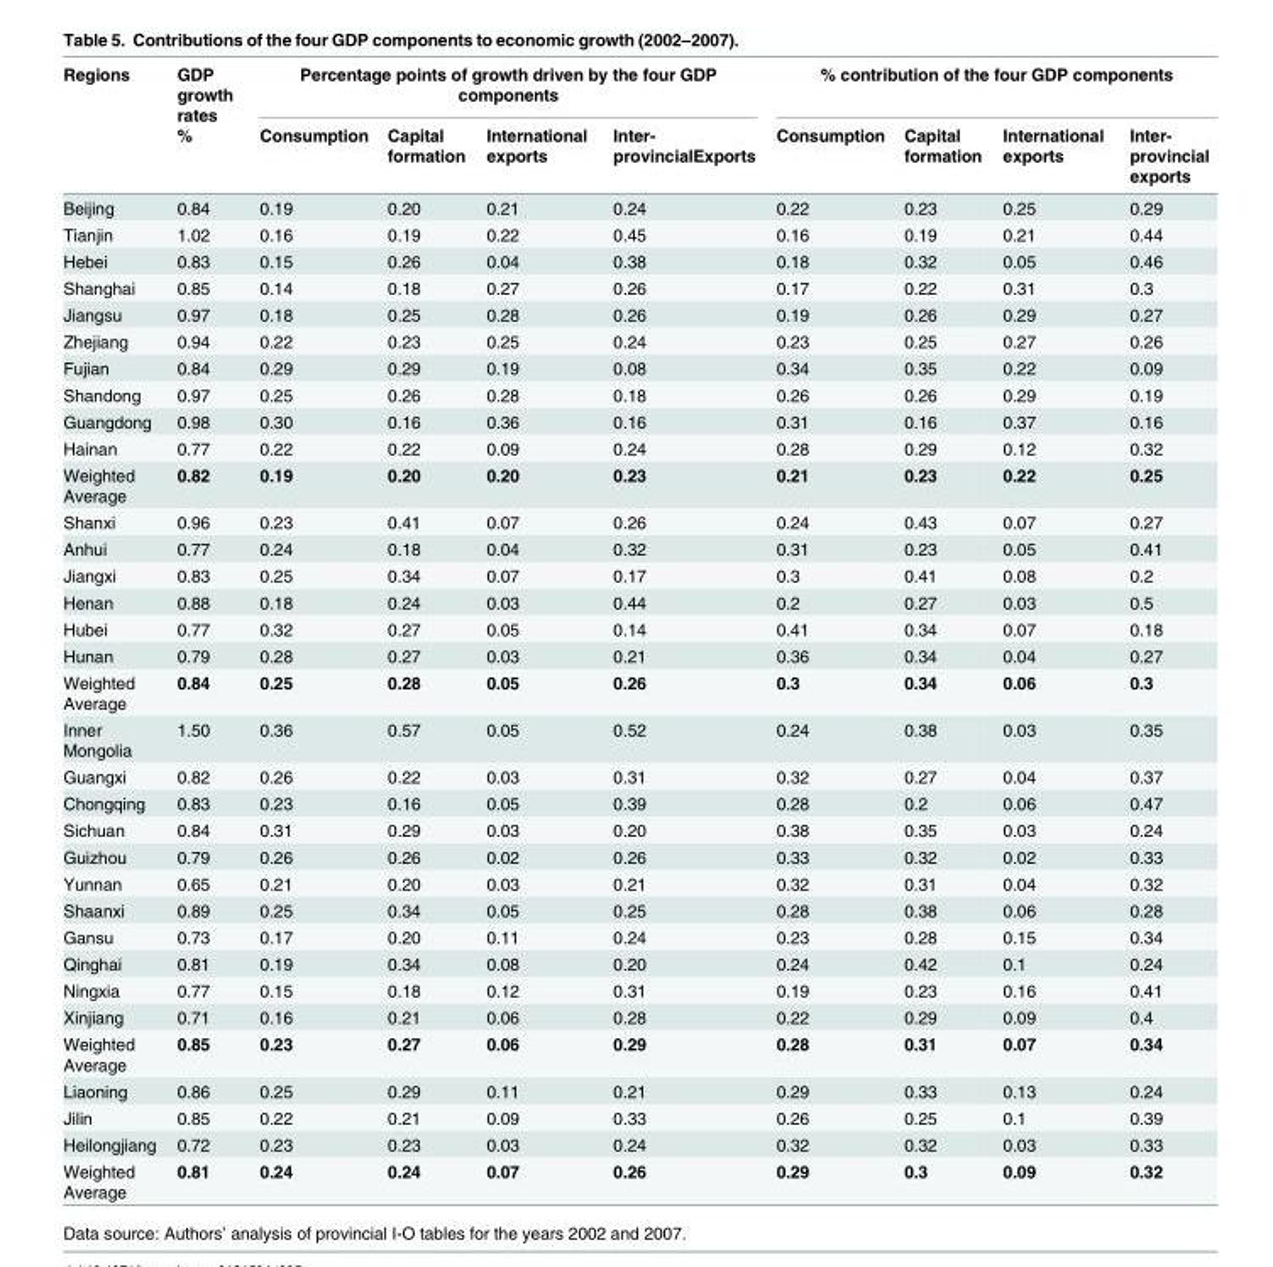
<table><thead><tr><td rowspan="2">Regions</td><td rowspan="2">GDP growth rates %</td><td colspan="4">Percentage points of growth driven by the four GDP components</td><td colspan="4">% contribution of the four GDP components</td></tr><tr><td>Consumption</td><td>Capital formation</td><td>International exports</td><td>Inter- provincialExports</td><td>Consumption</td><td>Capital formation</td><td>International exports</td><td>Inter- provincial exports</td></tr></thead><tbody><tr><td>Beijing</td><td>0.84</td><td>0.19</td><td>0.20</td><td>0.21</td><td>0.24</td><td>0.22</td><td>0.23</td><td>0.25</td><td>0.29</td></tr><tr><td>Tianjin</td><td>1.02</td><td>0.16</td><td>0.19</td><td>0.22</td><td>0.45</td><td>0.16</td><td>0.19</td><td>0.21</td><td>0.44</td></tr><tr><td>Hebei</td><td>0.83</td><td>0.15</td><td>0.26</td><td>0.04</td><td>0.38</td><td>0.18</td><td>0.32</td><td>0.05</td><td>0.46</td></tr><tr><td>Shanghai</td><td>0.85</td><td>0.14</td><td>0.18</td><td>0.27</td><td>0.26</td><td>0.17</td><td>0.22</td><td>0.31</td><td>0.3</td></tr><tr><td>Jiangsu</td><td>0.97</td><td>0.18</td><td>0.25</td><td>0.28</td><td>0.26</td><td>0.19</td><td>0.26</td><td>0.29</td><td>0.27</td></tr><tr><td>Zhejiang</td><td>0.94</td><td>0.22</td><td>0.23</td><td>0.25</td><td>0.24</td><td>0.23</td><td>0.25</td><td>0.27</td><td>0.26</td></tr><tr><td>Fujian</td><td>0.84</td><td>0.29</td><td>0.29</td><td>0.19</td><td>0.08</td><td>0.34</td><td>0.35</td><td>0.22</td><td>0.09</td></tr><tr><td>Shandong</td><td>0.97</td><td>0.25</td><td>0.26</td><td>0.28</td><td>0.18</td><td>0.26</td><td>0.26</td><td>0.29</td><td>0.19</td></tr><tr><td>Guangdong</td><td>0.98</td><td>0.30</td><td>0.16</td><td>0.36</td><td>0.16</td><td>0.31</td><td>0.16</td><td>0.37</td><td>0.16</td></tr><tr><td>Hainan</td><td>0.77</td><td>0.22</td><td>0.22</td><td>0.09</td><td>0.24</td><td>0.28</td><td>0.29</td><td>0.12</td><td>0.32</td></tr><tr><td>Weighted Average</td><td>0.82</td><td>0.19</td><td>0.20</td><td>0.20</td><td>0.23</td><td>0.21</td><td>0.23</td><td>0.22</td><td>0.25</td></tr><tr><td>Shanxi</td><td>0.96</td><td>0.23</td><td>0.41</td><td>0.07</td><td>0.26</td><td>0.24</td><td>0.43</td><td>0.07</td><td>0.27</td></tr><tr><td>Anhui</td><td>0.77</td><td>0.24</td><td>0.18</td><td>0.04</td><td>0.32</td><td>0.31</td><td>0.23</td><td>0.05</td><td>0.41</td></tr><tr><td>Jiangxi</td><td>0.83</td><td>0.25</td><td>0.34</td><td>0.07</td><td>0.17</td><td>0.3</td><td>0.41</td><td>0.08</td><td>0.2</td></tr><tr><td>Henan</td><td>0.88</td><td>0.18</td><td>0.24</td><td>0.03</td><td>0.44</td><td>0.2</td><td>0.27</td><td>0.03</td><td>0.5</td></tr><tr><td>Hubei</td><td>0.77</td><td>0.32</td><td>0.27</td><td>0.05</td><td>0.14</td><td>0.41</td><td>0.34</td><td>0.07</td><td>0.18</td></tr><tr><td>Hunan</td><td>0.79</td><td>0.28</td><td>0.27</td><td>0.03</td><td>0.21</td><td>0.36</td><td>0.34</td><td>0.04</td><td>0.27</td></tr><tr><td>Weighted Average</td><td>0.84</td><td>0.25</td><td>0.28</td><td>0.05</td><td>0.26</td><td>0.3</td><td>0.34</td><td>0.06</td><td>0.3</td></tr><tr><td>Inner Mongolia</td><td>1.50</td><td>0.36</td><td>0.57</td><td>0.05</td><td>0.52</td><td>0.24</td><td>0.38</td><td>0.03</td><td>0.35</td></tr><tr><td>Guangxi</td><td>0.82</td><td>0.26</td><td>0.22</td><td>0.03</td><td>0.31</td><td>0.32</td><td>0.27</td><td>0.04</td><td>0.37</td></tr><tr><td>Chongqing</td><td>0.83</td><td>0.23</td><td>0.16</td><td>0.05</td><td>0.39</td><td>0.28</td><td>0.2</td><td>0.06</td><td>0.47</td></tr><tr><td>Sichuan</td><td>0.84</td><td>0.31</td><td>0.29</td><td>0.03</td><td>0.20</td><td>0.38</td><td>0.35</td><td>0.03</td><td>0.24</td></tr><tr><td>Guizhou</td><td>0.79</td><td>0.26</td><td>0.26</td><td>0.02</td><td>0.26</td><td>0.33</td><td>0.32</td><td>0.02</td><td>0.33</td></tr><tr><td>Yunnan</td><td>0.65</td><td>0.21</td><td>0.20</td><td>0.03</td><td>0.21</td><td>0.32</td><td>0.31</td><td>0.04</td><td>0.32</td></tr><tr><td>Shaanxi</td><td>0.89</td><td>0.25</td><td>0.34</td><td>0.05</td><td>0.25</td><td>0.28</td><td>0.38</td><td>0.06</td><td>0.28</td></tr><tr><td>Gansu</td><td>0.73</td><td>0.17</td><td>0.20</td><td>0.11</td><td>0.24</td><td>0.23</td><td>0.28</td><td>0.15</td><td>0.34</td></tr><tr><td>Qinghai</td><td>0.81</td><td>0.19</td><td>0.34</td><td>0.08</td><td>0.20</td><td>0.24</td><td>0.42</td><td>0.1</td><td>0.24</td></tr><tr><td>Ningxia</td><td>0.77</td><td>0.15</td><td>0.18</td><td>0.12</td><td>0.31</td><td>0.19</td><td>0.23</td><td>0.16</td><td>0.41</td></tr><tr><td>Xinjiang</td><td>0.71</td><td>0.16</td><td>0.21</td><td>0.06</td><td>0.28</td><td>0.22</td><td>0.29</td><td>0.09</td><td>0.4</td></tr><tr><td>Weighted Average</td><td>0.85</td><td>0.23</td><td>0.27</td><td>0.06</td><td>0.29</td><td>0.28</td><td>0.31</td><td>0.07</td><td>0.34</td></tr><tr><td>Liaoning</td><td>0.86</td><td>0.25</td><td>0.29</td><td>0.11</td><td>0.21</td><td>0.29</td><td>0.33</td><td>0.13</td><td>0.24</td></tr><tr><td>Jilin</td><td>0.85</td><td>0.22</td><td>0.21</td><td>0.09</td><td>0.33</td><td>0.26</td><td>0.25</td><td>0.1</td><td>0.39</td></tr><tr><td>Heilongjiang</td><td>0.72</td><td>0.23</td><td>0.23</td><td>0.03</td><td>0.24</td><td>0.32</td><td>0.32</td><td>0.03</td><td>0.33</td></tr><tr><td>Weighted Average</td><td>0.81</td><td>0.24</td><td>0.24</td><td>0.07</td><td>0.26</td><td>0.29</td><td>0.3</td><td>0.09</td><td>0.32</td></tr></tbody></table>